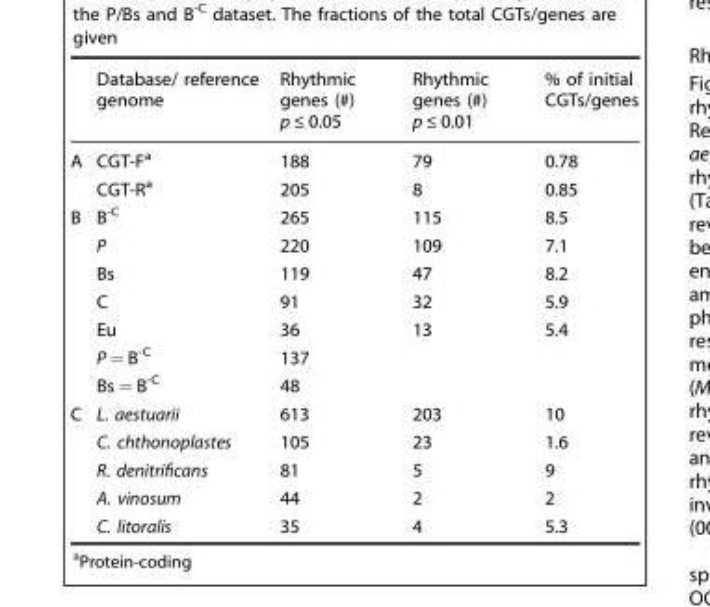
<table><thead><tr><td></td><td>Database/ reference genome</td><td>Rhythmic genes (#) p ≤ 0.05</td><td>Rhythmic genes (#) p ≤ 0.01</td><td>% of initial CGTs/genes</td></tr></thead><tbody><tr><td rowspan="2">A</td><td>CGT-F<sup>a</sup></td><td>188</td><td>79</td><td>0.78</td></tr><tr><td>CGT-R<sup>a</sup></td><td>205</td><td>8</td><td>0.85</td></tr><tr><td rowspan="7">B</td><td>B<sup>-C</sup></td><td>265</td><td>115</td><td>8.5</td></tr><tr><td>P</td><td>220</td><td>109</td><td>7.1</td></tr><tr><td>Bs</td><td>119</td><td>47</td><td>8.2</td></tr><tr><td>C</td><td>91</td><td>32</td><td>5.9</td></tr><tr><td>Eu</td><td>36</td><td>13</td><td>5.4</td></tr><tr><td>P = B<sup>-C</sup></td><td>137</td><td></td><td></td></tr><tr><td>Bs = B<sup>-C</sup></td><td>48</td><td></td><td></td></tr><tr><td rowspan="5">C</td><td>L. aestuarii</td><td>613</td><td>203</td><td>10</td></tr><tr><td>C. chthonoplastes</td><td>105</td><td>23</td><td>1.6</td></tr><tr><td>R. denitrificans</td><td>81</td><td>5</td><td>9</td></tr><tr><td>A. vinosum</td><td>44</td><td>2</td><td>2</td></tr><tr><td>C. litoralis</td><td>35</td><td>4</td><td>5.3</td></tr></tbody></table>